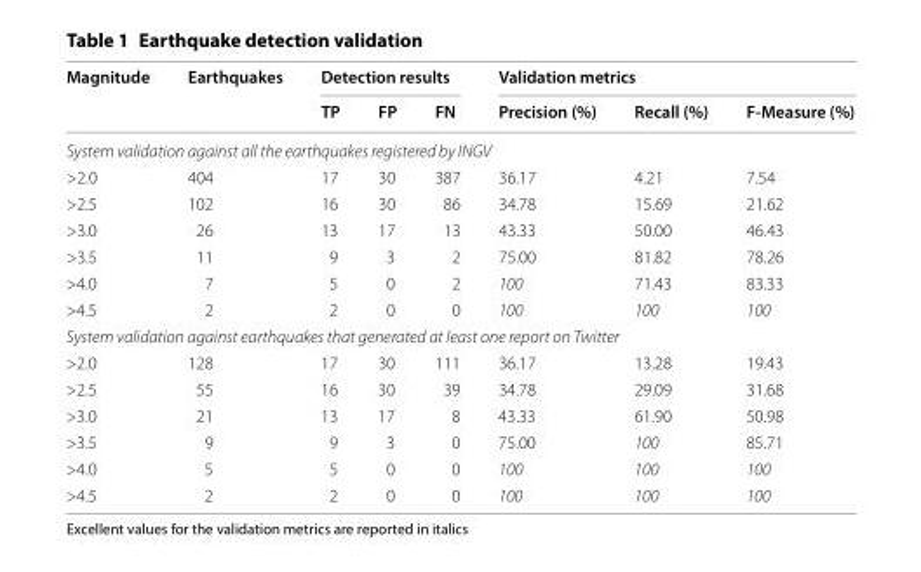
<table><thead><tr><td rowspan="2">Magnitude</td><td rowspan="2">Earthquakes</td><td colspan="3">Detection results</td><td colspan="3">Validation metrics</td></tr><tr><td>TP</td><td>FP</td><td>FN</td><td>Precision (%)</td><td>Recall (%)</td><td>F-Measure (%)</td></tr></thead><tbody><tr><td colspan="8">System validation against all the earthquakes registered by INGV</td></tr><tr><td>&gt;2.0</td><td>404</td><td>17</td><td>30</td><td>387</td><td>36.17</td><td>4.21</td><td>7.54</td></tr><tr><td>&gt;2.5</td><td>102</td><td>16</td><td>30</td><td>86</td><td>34.78</td><td>15.69</td><td>21.62</td></tr><tr><td>&gt;3.0</td><td>26</td><td>13</td><td>17</td><td>13</td><td>43.33</td><td>50.00</td><td>46.43</td></tr><tr><td>&gt;3.5</td><td>11</td><td>9</td><td>3</td><td>2</td><td>75.00</td><td>81.82</td><td>78.26</td></tr><tr><td>&gt;4.0</td><td>7</td><td>5</td><td>0</td><td>2</td><td>100</td><td>71.43</td><td>83.33</td></tr><tr><td>&gt;4.5</td><td>2</td><td>2</td><td>0</td><td>0</td><td>100</td><td>100</td><td>100</td></tr><tr><td colspan="8">System validation against earthquakes that generated at least one report on Twitter</td></tr><tr><td>&gt;2.0</td><td>128</td><td>17</td><td>30</td><td>111</td><td>36.17</td><td>13.28</td><td>19.43</td></tr><tr><td>&gt;2.5</td><td>55</td><td>16</td><td>30</td><td>39</td><td>34.78</td><td>29.09</td><td>31.68</td></tr><tr><td>&gt;3.0</td><td>21</td><td>13</td><td>17</td><td>8</td><td>43.33</td><td>61.90</td><td>50.98</td></tr><tr><td>&gt;3.5</td><td>9</td><td>9</td><td>3</td><td>0</td><td>75.00</td><td>100</td><td>85.71</td></tr><tr><td>&gt;4.0</td><td>5</td><td>5</td><td>0</td><td>0</td><td>100</td><td>100</td><td>100</td></tr><tr><td>&gt;4.5</td><td>2</td><td>2</td><td>0</td><td>0</td><td>100</td><td>100</td><td>100</td></tr></tbody></table>